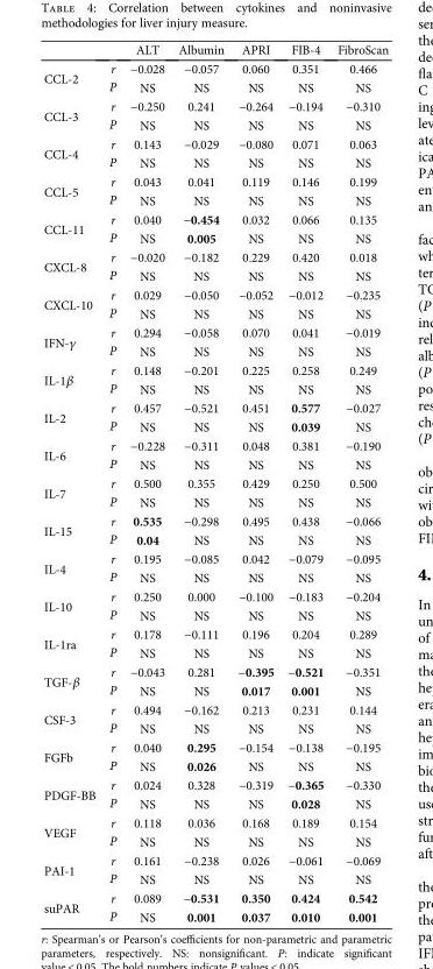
<table><thead><tr><td></td><td></td><td>ALT</td><td>Albumin</td><td>APRI</td><td>FIB-4</td><td>FibroScan</td></tr></thead><tbody><tr><td rowspan="2">CCL-2</td><td>r</td><td>−0.028</td><td>−0.057</td><td>0.060</td><td>0.351</td><td>0.466</td></tr><tr><td>P</td><td>NS</td><td>NS</td><td>NS</td><td>NS</td><td>NS</td></tr><tr><td rowspan="2">CCL-3</td><td>r</td><td>−0.250</td><td>0.241</td><td>−0.264</td><td>−0.194</td><td>−0.310</td></tr><tr><td>P</td><td>NS</td><td>NS</td><td>NS</td><td>NS</td><td>NS</td></tr><tr><td rowspan="2">CCL-4</td><td>r</td><td>0.143</td><td>−0.029</td><td>−0.080</td><td>0.071</td><td>0.063</td></tr><tr><td>P</td><td>NS</td><td>NS</td><td>NS</td><td>NS</td><td>NS</td></tr><tr><td rowspan="2">CCL-5</td><td>r</td><td>0.043</td><td>0.041</td><td>0.119</td><td>0.146</td><td>0.199</td></tr><tr><td>P</td><td>NS</td><td>NS</td><td>NS</td><td>NS</td><td>NS</td></tr><tr><td rowspan="2">CCL-11</td><td>r</td><td>0.040</td><td>−0.454</td><td>0.032</td><td>0.066</td><td>0.135</td></tr><tr><td>P</td><td>NS</td><td>0.005</td><td>NS</td><td>NS</td><td>NS</td></tr><tr><td rowspan="2">CXCL-8</td><td>r</td><td>−0.020</td><td>−0.182</td><td>0.229</td><td>0.420</td><td>0.018</td></tr><tr><td>P</td><td>NS</td><td>NS</td><td>NS</td><td>NS</td><td>NS</td></tr><tr><td rowspan="2">CXCL-10</td><td>r</td><td>0.029</td><td>−0.050</td><td>−0.052</td><td>−0.012</td><td>−0.235</td></tr><tr><td>P</td><td>NS</td><td>NS</td><td>NS</td><td>NS</td><td>NS</td></tr><tr><td rowspan="2">IFN-γ</td><td>r</td><td>0.294</td><td>−0.058</td><td>0.070</td><td>0.041</td><td>−0.019</td></tr><tr><td>P</td><td>NS</td><td>NS</td><td>NS</td><td>NS</td><td>NS</td></tr><tr><td rowspan="2">IL-1β</td><td>r</td><td>0.148</td><td>−0.201</td><td>0.225</td><td>0.258</td><td>0.249</td></tr><tr><td>P</td><td>NS</td><td>NS</td><td>NS</td><td>NS</td><td>NS</td></tr><tr><td rowspan="2">IL-2</td><td>r</td><td>0.457</td><td>−0.521</td><td>0.451</td><td>0.577</td><td>−0.027</td></tr><tr><td>P</td><td>NS</td><td>NS</td><td>NS</td><td>0.039</td><td>NS</td></tr><tr><td rowspan="2">IL-6</td><td>r</td><td>−0.228</td><td>−0.311</td><td>0.048</td><td>0.381</td><td>−0.190</td></tr><tr><td>P</td><td>NS</td><td>NS</td><td>NS</td><td>NS</td><td>NS</td></tr><tr><td rowspan="2">IL-7</td><td>r</td><td>0.500</td><td>0.355</td><td>0.429</td><td>0.250</td><td>0.500</td></tr><tr><td>P</td><td>NS</td><td>NS</td><td>NS</td><td>NS</td><td>NS</td></tr><tr><td rowspan="2">IL-15</td><td>r</td><td>0.535</td><td>−0.298</td><td>0.495</td><td>0.438</td><td>−0.066</td></tr><tr><td>P</td><td>0.04</td><td>NS</td><td>NS</td><td>NS</td><td>NS</td></tr><tr><td rowspan="2">IL-4</td><td>r</td><td>0.195</td><td>−0.085</td><td>0.042</td><td>−0.079</td><td>−0.095</td></tr><tr><td>P</td><td>NS</td><td>NS</td><td>NS</td><td>NS</td><td>NS</td></tr><tr><td rowspan="2">IL-10</td><td>r</td><td>0.250</td><td>0.000</td><td>−0.100</td><td>−0.183</td><td>−0.204</td></tr><tr><td>P</td><td>NS</td><td>NS</td><td>NS</td><td>NS</td><td>NS</td></tr><tr><td rowspan="2">IL-1ra</td><td>r</td><td>0.178</td><td>−0.111</td><td>0.196</td><td>0.204</td><td>0.289</td></tr><tr><td>P</td><td>NS</td><td>NS</td><td>NS</td><td>NS</td><td>NS</td></tr><tr><td rowspan="2">TGF-β</td><td>r</td><td>−0.043</td><td>0.281</td><td>−0.395</td><td>−0.521</td><td>−0.351</td></tr><tr><td>P</td><td>NS</td><td>NS</td><td>0.017</td><td>0.001</td><td>NS</td></tr><tr><td rowspan="2">CSF-3</td><td>r</td><td>0.494</td><td>−0.162</td><td>0.213</td><td>0.231</td><td>0.144</td></tr><tr><td>P</td><td>NS</td><td>NS</td><td>NS</td><td>NS</td><td>NS</td></tr><tr><td rowspan="2">FGFb</td><td>r</td><td>0.040</td><td>0.295</td><td>−0.154</td><td>−0.138</td><td>−0.195</td></tr><tr><td>P</td><td>NS</td><td>0.026</td><td>NS</td><td>NS</td><td>NS</td></tr><tr><td rowspan="2">PDGF-BB</td><td>r</td><td>0.024</td><td>0.328</td><td>−0.319</td><td>−0.365</td><td>−0.330</td></tr><tr><td>P</td><td>NS</td><td>NS</td><td>NS</td><td>0.028</td><td>NS</td></tr><tr><td rowspan="2">VEGF</td><td>r</td><td>0.118</td><td>0.036</td><td>0.168</td><td>0.189</td><td>0.154</td></tr><tr><td>P</td><td>NS</td><td>NS</td><td>NS</td><td>NS</td><td>NS</td></tr><tr><td rowspan="2">PAI-1</td><td>r</td><td>0.161</td><td>−0.238</td><td>0.026</td><td>−0.061</td><td>−0.069</td></tr><tr><td>P</td><td>NS</td><td>NS</td><td>NS</td><td>NS</td><td>NS</td></tr><tr><td rowspan="2">suPAR</td><td>r</td><td>0.089</td><td>−0.531</td><td>0.350</td><td>0.424</td><td>0.542</td></tr><tr><td>P</td><td>NS</td><td>0.001</td><td>0.037</td><td>0.010</td><td>0.001</td></tr></tbody></table>